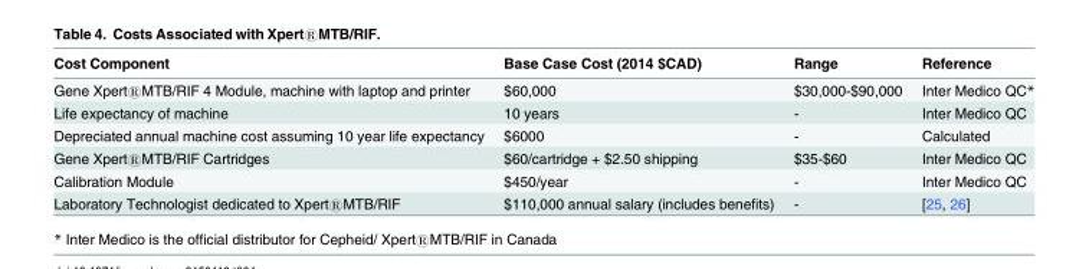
<table><thead><tr><td>Cost Component</td><td>Base Case Cost (2014 $CAD)</td><td>Range</td><td>Reference</td></tr></thead><tbody><tr><td>Gene Xpert®MTB/RIF 4 Module, machine with laptop and printer</td><td>$60,000</td><td>$30,000-$90,000</td><td>Inter Medico QC*</td></tr><tr><td>Life expectancy of machine</td><td>10 years</td><td>-</td><td>Inter Medico QC</td></tr><tr><td>Depreciated annual machine cost assuming 10 year life expectancy</td><td>$6000</td><td>-</td><td>Calculated</td></tr><tr><td>Gene Xpert®MTB/RIF Cartridges</td><td>$60/cartridge + $2.50 shipping</td><td>$35-$60</td><td>Inter Medico QC</td></tr><tr><td>Calibration Module</td><td>$450/year</td><td>-</td><td>Inter Medico QC</td></tr><tr><td>Laboratory Technologist dedicated to Xpert®MTB/RIF</td><td>$110,000 annual salary (includes benefits)</td><td>-</td><td>[25, 26]</td></tr></tbody></table>